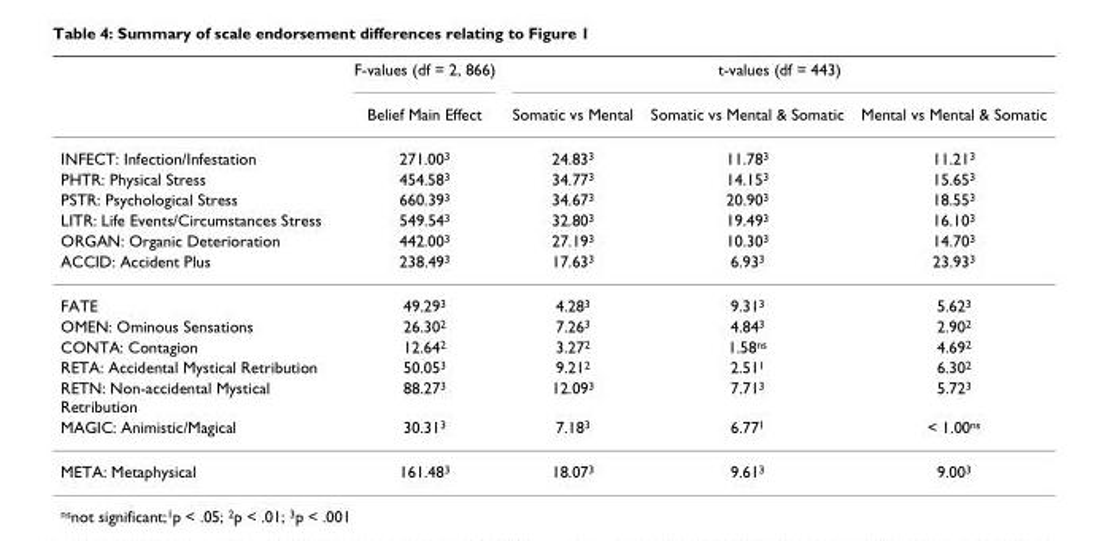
<table><thead><tr><td rowspan="2"></td><td rowspan="2">F-values (df = 2, 866) Belief Main Effect</td><td colspan="3">t-values (df = 443)</td></tr><tr><td>Somatic vs Mental</td><td>Somatic vs Mental &amp; Somatic</td><td>Mental vs Mental &amp; Somatic</td></tr></thead><tbody><tr><td>INFECT: Infection/Infestation</td><td>271.00<sup>3</sup></td><td>24.83<sup>3</sup></td><td>11.78<sup>3</sup></td><td>11.21<sup>3</sup></td></tr><tr><td>PHTR: Physical Stress</td><td>454.58<sup>3</sup></td><td>34.77<sup>3</sup></td><td>14.15<sup>3</sup></td><td>15.65<sup>3</sup></td></tr><tr><td>PSTR: Psychological Stress</td><td>660.39<sup>3</sup></td><td>34.67<sup>3</sup></td><td>20.90<sup>3</sup></td><td>18.55<sup>3</sup></td></tr><tr><td>LITR: Life Events/Circumstances Stress</td><td>549.54<sup>3</sup></td><td>32.80<sup>3</sup></td><td>19.49<sup>3</sup></td><td>16.10<sup>3</sup></td></tr><tr><td>ORGAN: Organic Deterioration</td><td>442.00<sup>3</sup></td><td>27.19<sup>3</sup></td><td>10.30<sup>3</sup></td><td>14.70<sup>3</sup></td></tr><tr><td>ACCID: Accident Plus</td><td>238.49<sup>3</sup></td><td>17.63<sup>3</sup></td><td>6.93<sup>3</sup></td><td>23.93<sup>3</sup></td></tr><tr><td>FATE</td><td>49.29<sup>3</sup></td><td>4.28<sup>3</sup></td><td>9.31<sup>3</sup></td><td>5.62<sup>3</sup></td></tr><tr><td>OMEN: Ominous Sensations</td><td>26.30<sup>2</sup></td><td>7.26<sup>3</sup></td><td>4.84<sup>3</sup></td><td>2.90<sup>2</sup></td></tr><tr><td>CONTA: Contagion</td><td>12.64<sup>2</sup></td><td>3.27<sup>2</sup></td><td>1.58<sup>ns</sup></td><td>4.69<sup>2</sup></td></tr><tr><td>RETA: Accidental Mystical Retribution</td><td>50.05<sup>3</sup></td><td>9.21<sup>2</sup></td><td>2.51<sup>1</sup></td><td>6.30<sup>2</sup></td></tr><tr><td>RETN: Non-accidental Mystical Retribution</td><td>88.27<sup>3</sup></td><td>12.09<sup>3</sup></td><td>7.71<sup>3</sup></td><td>5.72<sup>3</sup></td></tr><tr><td>MAGIC: Animistic/Magical</td><td>30.31<sup>3</sup></td><td>7.18<sup>3</sup></td><td>6.77<sup>1</sup></td><td>&lt; 1.00<sup>ns</sup></td></tr><tr><td>META: Metaphysical</td><td>161.48<sup>3</sup></td><td>18.07<sup>3</sup></td><td>9.61<sup>3</sup></td><td>9.00<sup>3</sup></td></tr></tbody></table>